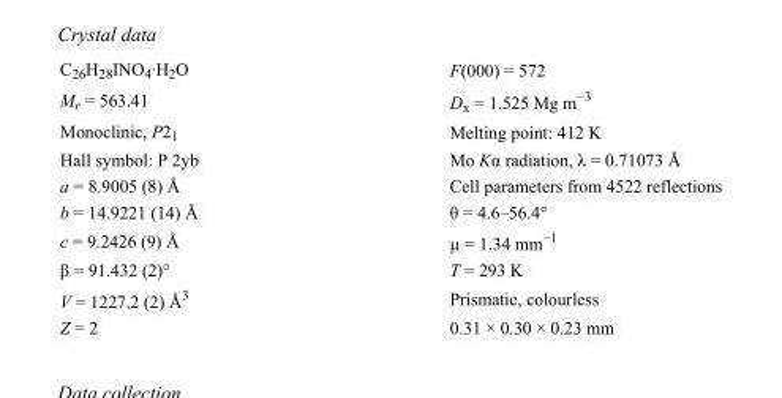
<table><tbody><tr><td>C<sub>26</sub>H<sub>28</sub>INO<sub>4</sub>·H<sub>2</sub>O</td><td>F(000) = 572</td></tr><tr><td>M<sub>r</sub> = 563.41</td><td>D<sub>x</sub> = 1.525 Mg m<sup>−3</sup></td></tr><tr><td>Monoclinic, P2<sub>1</sub></td><td>Melting point: 412 K</td></tr><tr><td>Hall symbol: P 2yb</td><td>Mo Kα radiation, λ = 0.71073 Å</td></tr><tr><td>a = 8.9005 (8) Å</td><td>Cell parameters from 4522 reflections</td></tr><tr><td>b = 14.9221 (14) Å</td><td>θ = 4.6–56.4°</td></tr><tr><td>c = 9.2426 (9) Å</td><td>µ = 1.34 mm<sup>−1</sup></td></tr><tr><td>β = 91.432 (2)°</td><td>T = 293 K</td></tr><tr><td>V = 1227.2 (2) Å<sup>3</sup></td><td>Prismatic, colourless</td></tr><tr><td>Z = 2</td><td>0.31 × 0.30 × 0.23 mm</td></tr></tbody></table>